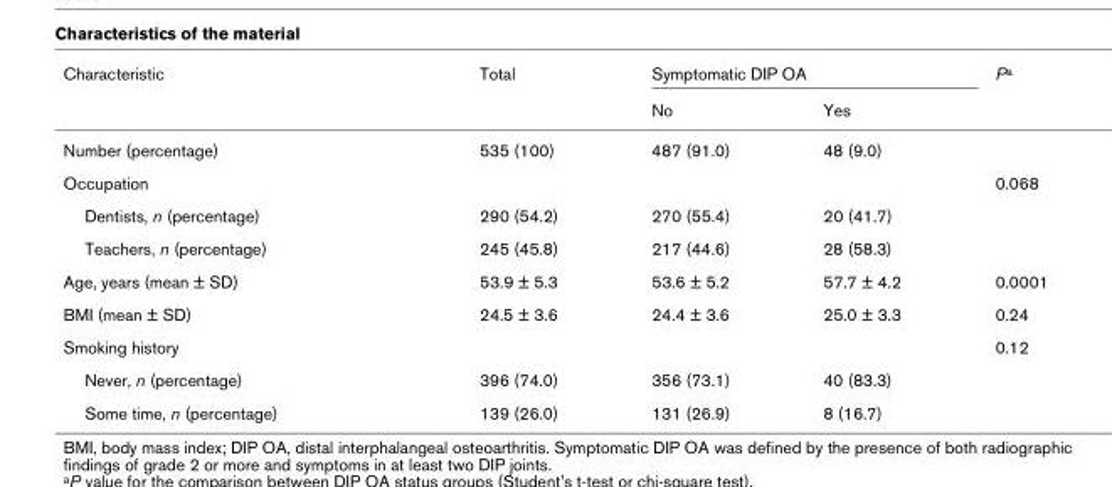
<table><thead><tr><td rowspan="2">Characteristic</td><td rowspan="2">Total</td><td colspan="2">Symptomatic DIP OA</td><td rowspan="2">P<sup>a</sup></td></tr><tr><td>No</td><td>Yes</td></tr></thead><tbody><tr><td>Number (percentage)</td><td>535 (100)</td><td>487 (91.0)</td><td>48 (9.0)</td><td></td></tr><tr><td>Occupation</td><td></td><td></td><td></td><td>0.068</td></tr><tr><td>Dentists, n (percentage)</td><td>290 (54.2)</td><td>270 (55.4)</td><td>20 (41.7)</td><td></td></tr><tr><td>Teachers, n (percentage)</td><td>245 (45.8)</td><td>217 (44.6)</td><td>28 (58.3)</td><td></td></tr><tr><td>Age, years (mean ± SD)</td><td>53.9 ± 5.3</td><td>53.6 ± 5.2</td><td>57.7 ± 4.2</td><td>0.0001</td></tr><tr><td>BMI (mean ± SD)</td><td>24.5 ± 3.6</td><td>24.4 ± 3.6</td><td>25.0 ± 3.3</td><td>0.24</td></tr><tr><td>Smoking history</td><td></td><td></td><td></td><td>0.12</td></tr><tr><td>Never, n (percentage)</td><td>396 (74.0)</td><td>356 (73.1)</td><td>40 (83.3)</td><td></td></tr><tr><td>Some time, n (percentage)</td><td>139 (26.0)</td><td>131 (26.9)</td><td>8 (16.7)</td><td></td></tr></tbody></table>